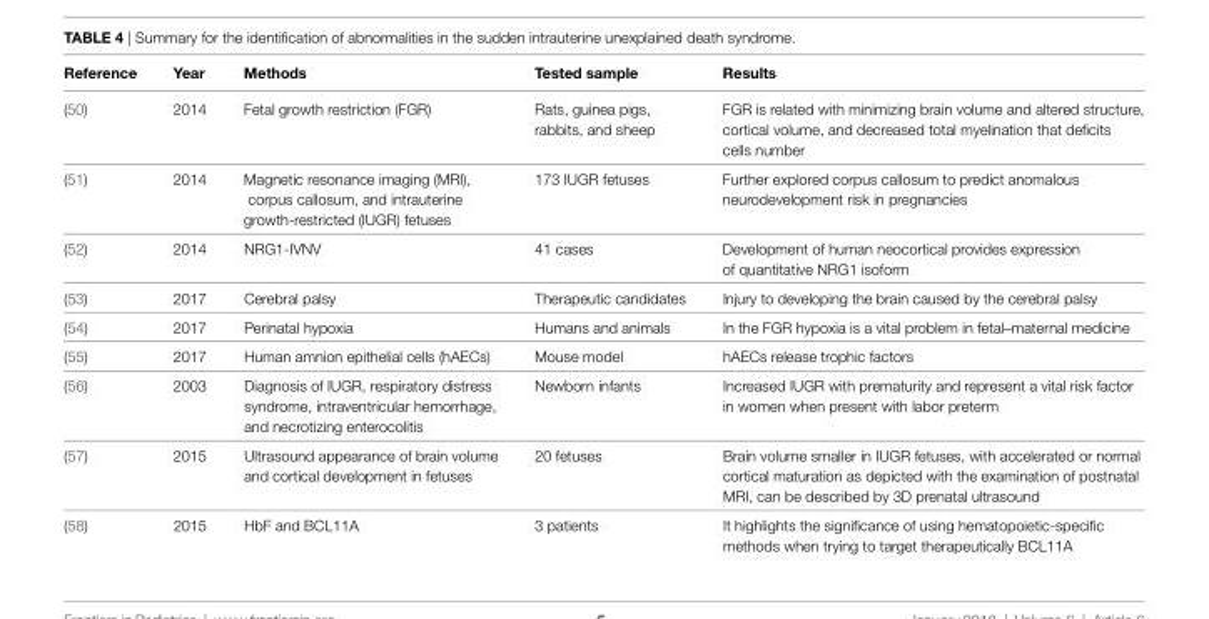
<table><thead><tr><td>Reference</td><td>Year</td><td>Methods</td><td>Tested sample</td><td>Results</td></tr></thead><tbody><tr><td>(50)</td><td>2014</td><td>Fetal growth restriction (FGR)</td><td>Rats, guinea pigs, rabbits, and sheep</td><td>FGR is related with minimizing brain volume and altered structure, cortical volume, and decreased total myelination that deficits cells number</td></tr><tr><td>(51)</td><td>2014</td><td>Magnetic resonance imaging (MRI), corpus callosum, and intrauterine growth-restricted (IUGR) fetuses</td><td>173 IUGR fetuses</td><td>Further explored corpus callosum to predict anomalous neurodevelopment risk in pregnancies</td></tr><tr><td>(52)</td><td>2014</td><td>NRG1-IVNV</td><td>41 cases</td><td>Development of human neocortical provides expression of quantitative NRG1 isoform</td></tr><tr><td>(53)</td><td>2017</td><td>Cerebral palsy</td><td>Therapeutic candidates</td><td>Injury to developing the brain caused by the cerebral palsy</td></tr><tr><td>(54)</td><td>2017</td><td>Perinatal hypoxia</td><td>Humans and animals</td><td>In the FGR hypoxia is a vital problem in fetal–maternal medicine</td></tr><tr><td>(55)</td><td>2017</td><td>Human amnion epithelial cells (hAECs)</td><td>Mouse model</td><td>hAECs release trophic factors</td></tr><tr><td>(56)</td><td>2003</td><td>Diagnosis of IUGR, respiratory distress syndrome, intraventricular hemorrhage, and necrotizing enterocolitis</td><td>Newborn infants</td><td>Increased IUGR with prematurity and represent a vital risk factor in women when present with labor preterm</td></tr><tr><td>(57)</td><td>2015</td><td>Ultrasound appearance of brain volume and cortical development in fetuses</td><td>20 fetuses</td><td>Brain volume smaller in IUGR fetuses, with accelerated or normal cortical maturation as depicted with the examination of postnatal MRI, can be described by 3D prenatal ultrasound</td></tr><tr><td>(58)</td><td>2015</td><td>HbF and BCL11A</td><td>3 patients</td><td>It highlights the significance of using hematopoietic-specific methods when trying to target therapeutically BCL11A</td></tr></tbody></table>